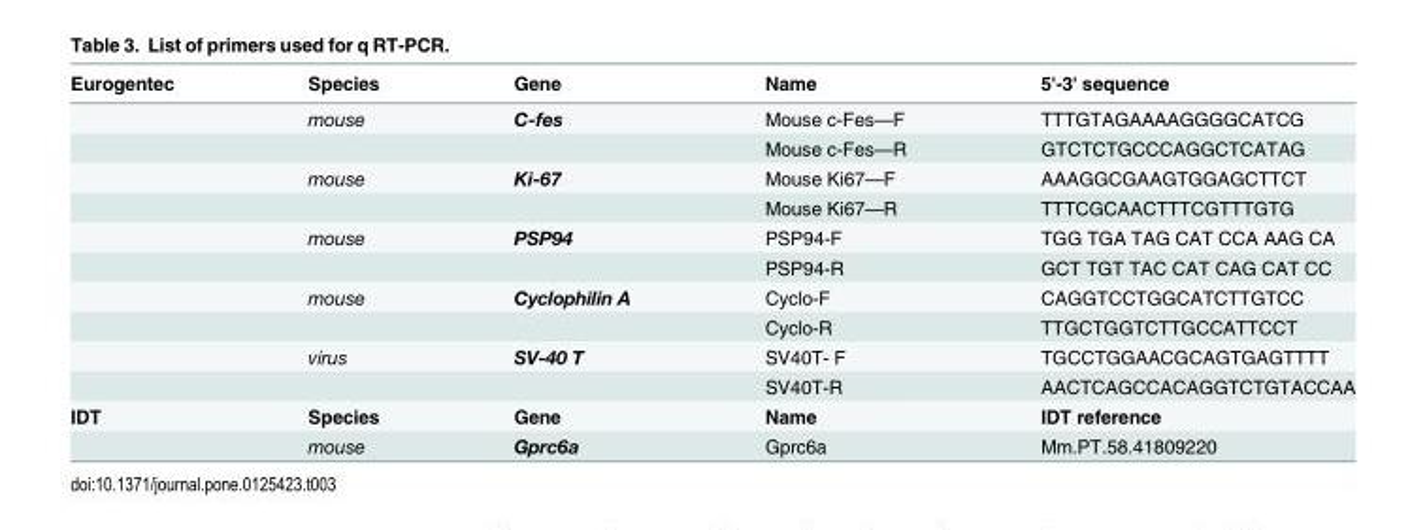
<table><thead><tr><td>Eurogentec</td><td>Species</td><td>Gene</td><td>Name</td><td>5&#x27;-3&#x27; sequence</td></tr></thead><tbody><tr><td></td><td>mouse</td><td>C-fes</td><td>Mouse c-Fes—F</td><td>TTTGTAGAAAAGGGGCATCG</td></tr><tr><td></td><td></td><td></td><td>Mouse c-Fes—R</td><td>GTCTCTGCCCAGGCTCATAG</td></tr><tr><td></td><td>mouse</td><td>Ki-67</td><td>Mouse Ki67—F</td><td>AAAGGCGAAGTGGAGCTTCT</td></tr><tr><td></td><td></td><td></td><td>Mouse Ki67—R</td><td>TTTCGCAACTTTCGTTTGTG</td></tr><tr><td></td><td>mouse</td><td>PSP94</td><td>PSP94-F</td><td>TGG TGA TAG CAT CCA AAG CA</td></tr><tr><td></td><td></td><td></td><td>PSP94-R</td><td>GCT TGT TAC CAT CAG CAT CC</td></tr><tr><td></td><td>mouse</td><td>Cyclophilin A</td><td>Cyclo-F</td><td>CAGGTCCTGGCATCTTGTCC</td></tr><tr><td></td><td></td><td></td><td>Cyclo-R</td><td>TTGCTGGTCTTGCCATTCCT</td></tr><tr><td></td><td>virus</td><td>SV-40 T</td><td>SV40T- F</td><td>TGCCTGGAACGCAGTGAGTTTT</td></tr><tr><td></td><td></td><td></td><td>SV40T-R</td><td>AACTCAGCCACAGGTCTGTACCAA</td></tr><tr><td rowspan="2">IDT</td><td>Species</td><td>Gene</td><td>Name</td><td>IDT reference</td></tr><tr><td>mouse</td><td>Gprc6a</td><td>Gprc6a</td><td>Mm.PT.58.41809220</td></tr></tbody></table>